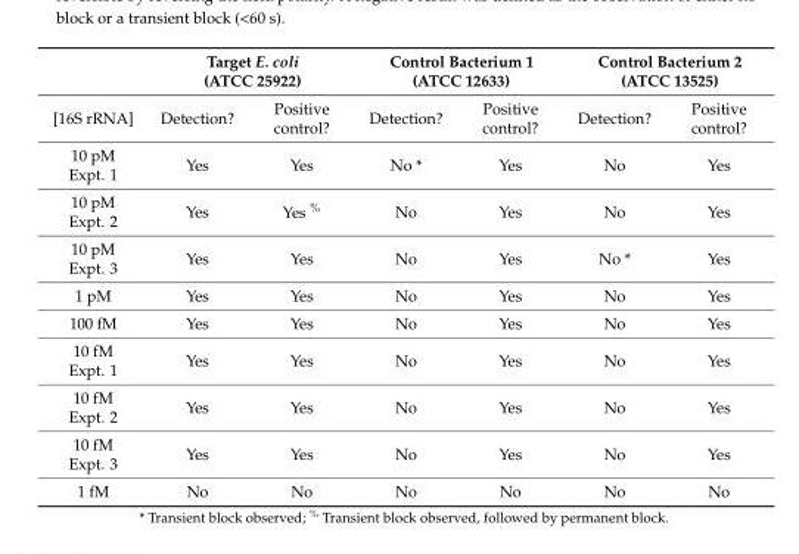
<table><thead><tr><td rowspan="2">[16S rRNA]</td><td colspan="2">Target E. coli (ATCC 25922)</td><td colspan="2">Control Bacterium 1 (ATCC 12633)</td><td colspan="2">Control Bacterium 2 (ATCC 13525)</td></tr><tr><td>Detection?</td><td>Positive control?</td><td>Detection?</td><td>Positive control?</td><td>Detection?</td><td>Positive control?</td></tr></thead><tbody><tr><td>10 pM Expt. 1</td><td>Yes</td><td>Yes</td><td>No *</td><td>Yes</td><td>No</td><td>Yes</td></tr><tr><td>10 pM Expt. 2</td><td>Yes</td><td>Yes <sup>%</sup></td><td>No</td><td>Yes</td><td>No</td><td>Yes</td></tr><tr><td>10 pM Expt. 3</td><td>Yes</td><td>Yes</td><td>No</td><td>Yes</td><td>No *</td><td>Yes</td></tr><tr><td>1 pM</td><td>Yes</td><td>Yes</td><td>No</td><td>Yes</td><td>No</td><td>Yes</td></tr><tr><td>100 fM</td><td>Yes</td><td>Yes</td><td>No</td><td>Yes</td><td>No</td><td>Yes</td></tr><tr><td>10 fM Expt. 1</td><td>Yes</td><td>Yes</td><td>No</td><td>Yes</td><td>No</td><td>Yes</td></tr><tr><td>10 fM Expt. 2</td><td>Yes</td><td>Yes</td><td>No</td><td>Yes</td><td>No</td><td>Yes</td></tr><tr><td>10 fM Expt. 3</td><td>Yes</td><td>Yes</td><td>No</td><td>Yes</td><td>No</td><td>Yes</td></tr><tr><td>1 fM</td><td>No</td><td>No</td><td>No</td><td>No</td><td>No</td><td>No</td></tr></tbody></table>